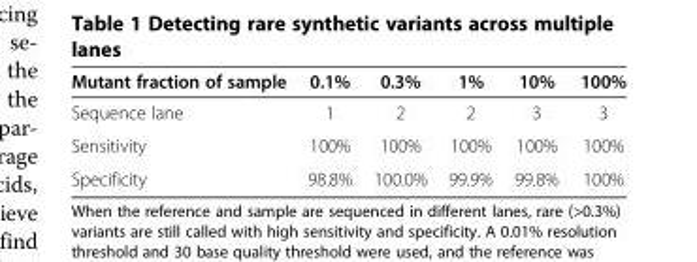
<table><thead><tr><td>Mutant fraction of sample</td><td>0.1%</td><td>0.3%</td><td>1%</td><td>10%</td><td>100%</td></tr></thead><tbody><tr><td>Sequence lane</td><td>1</td><td>2</td><td>2</td><td>3</td><td>3</td></tr><tr><td>Sensitivity</td><td>100%</td><td>100%</td><td>100%</td><td>100%</td><td>100%</td></tr><tr><td>Specificity</td><td>98.8%</td><td>100.0%</td><td>99.9%</td><td>99.8%</td><td>100%</td></tr></tbody></table>